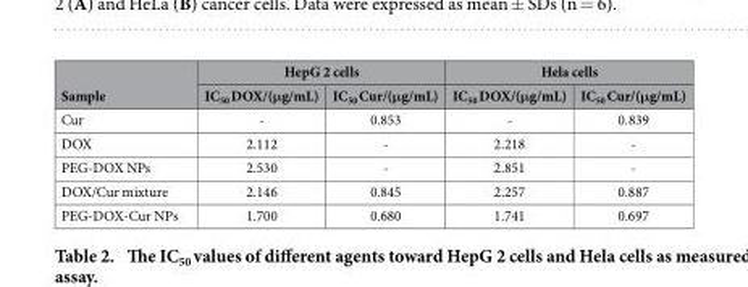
<table><thead><tr><td rowspan="2">Sample</td><td colspan="2">HepG 2 cells</td><td colspan="2">Hela cells</td></tr><tr><td>IC<sub>50</sub> DOX/(μg/mL)</td><td>IC<sub>50</sub> Cur/(μg/mL)</td><td>IC<sub>50</sub> DOX/(μg/mL)</td><td>IC<sub>50</sub> Cur/(μg/mL)</td></tr></thead><tbody><tr><td>Cur</td><td>-</td><td>0.853</td><td>-</td><td>0.839</td></tr><tr><td>DOX</td><td>2.112</td><td>-</td><td>2.218</td><td>-</td></tr><tr><td>PEG-DOX NPs</td><td>2.530</td><td>-</td><td>2.851</td><td>-</td></tr><tr><td>DOX/Cur mixture</td><td>2.146</td><td>0.845</td><td>2.257</td><td>0.887</td></tr><tr><td>PEG-DOX-Cur NPs</td><td>1.700</td><td>0.680</td><td>1.741</td><td>0.697</td></tr></tbody></table>